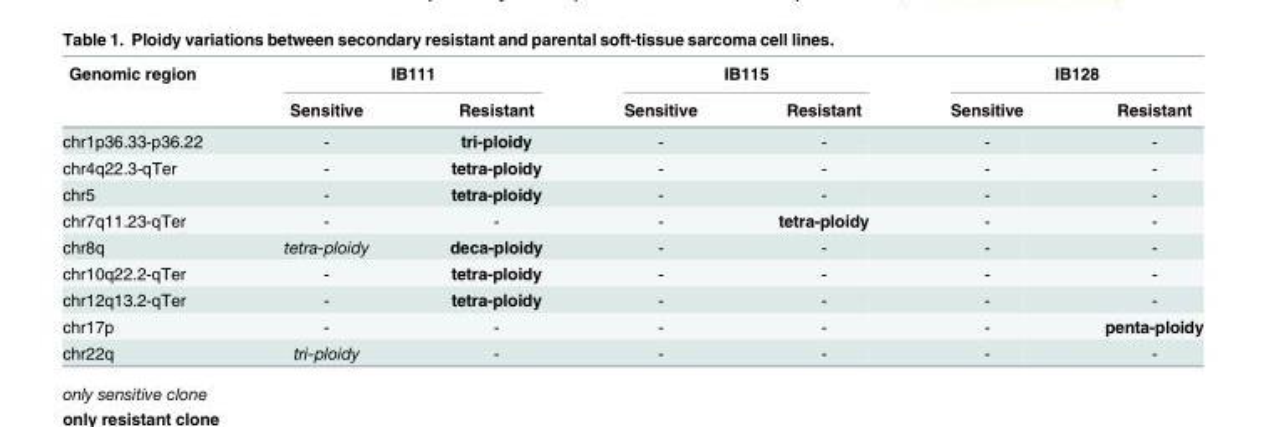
<table><thead><tr><td rowspan="2">Genomic region</td><td colspan="2">IB111</td><td colspan="2">IB115</td><td colspan="2">IB128</td></tr><tr><td>Sensitive</td><td>Resistant</td><td>Sensitive</td><td>Resistant</td><td>Sensitive</td><td>Resistant</td></tr></thead><tbody><tr><td>chr1p36.33-p36.22</td><td>-</td><td>tri-ploidy</td><td>-</td><td>-</td><td>-</td><td>-</td></tr><tr><td>chr4q22.3-qTer</td><td>-</td><td>tetra-ploidy</td><td>-</td><td>-</td><td>-</td><td>-</td></tr><tr><td>chr5</td><td>-</td><td>tetra-ploidy</td><td>-</td><td>-</td><td>-</td><td>-</td></tr><tr><td>chr7q11.23-qTer</td><td>-</td><td>-</td><td>-</td><td>tetra-ploidy</td><td>-</td><td>-</td></tr><tr><td>chr8q</td><td>tetra-ploidy</td><td>deca-ploidy</td><td>-</td><td>-</td><td>-</td><td>-</td></tr><tr><td>chr10q22.2-qTer</td><td>-</td><td>tetra-ploidy</td><td>-</td><td>-</td><td>-</td><td>-</td></tr><tr><td>chr12q13.2-qTer</td><td>-</td><td>tetra-ploidy</td><td>-</td><td>-</td><td>-</td><td>-</td></tr><tr><td>chr17p</td><td>-</td><td>-</td><td>-</td><td>-</td><td>-</td><td>penta-ploidy</td></tr><tr><td>chr22q</td><td>tri-ploidy</td><td>-</td><td>-</td><td>-</td><td>-</td><td>-</td></tr></tbody></table>